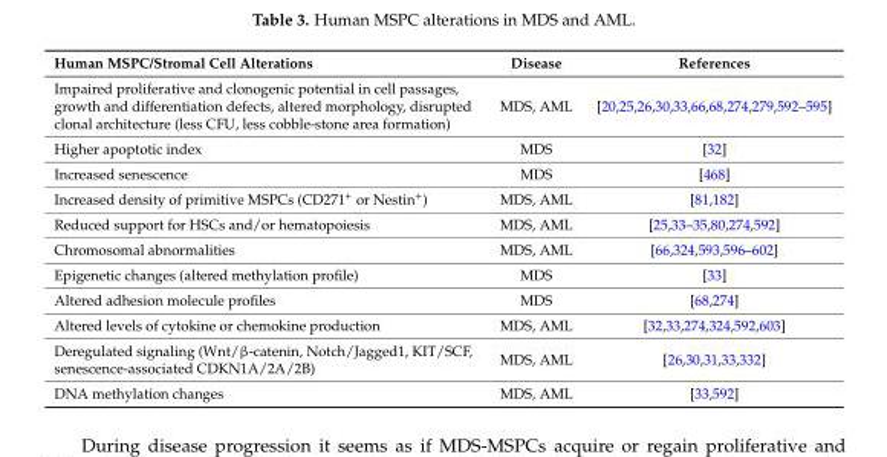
<table><thead><tr><td>Human MSPC/Stromal Cell Alterations</td><td>Disease</td><td>References</td></tr></thead><tbody><tr><td>Impaired proliferative and clonogenic potential in cell passages, growth and differentiation defects, altered morphology, disrupted clonal architecture (less CFU, less cobble-stone area formation)</td><td>MDS, AML</td><td>[20,25,26,30,33,66,68,274,279,592–595]</td></tr><tr><td>Higher apoptotic index</td><td>MDS</td><td>[32]</td></tr><tr><td>Increased senescence</td><td>MDS</td><td>[468]</td></tr><tr><td>Increased density of primitive MSPCs (CD271<sup>+</sup> or Nestin<sup>+</sup>)</td><td>MDS, AML</td><td>[81,182]</td></tr><tr><td>Reduced support for HSCs and/or hematopoiesis</td><td>MDS, AML</td><td>[25,33–35,80,274,592]</td></tr><tr><td>Chromosomal abnormalities</td><td>MDS, AML</td><td>[66,324,593,596–602]</td></tr><tr><td>Epigenetic changes (altered methylation profile)</td><td>MDS</td><td>[33]</td></tr><tr><td>Altered adhesion molecule profiles</td><td>MDS</td><td>[68,274]</td></tr><tr><td>Altered levels of cytokine or chemokine production</td><td>MDS, AML</td><td>[32,33,274,324,592,603]</td></tr><tr><td>Deregulated signaling (Wnt/β-catenin, Notch/Jagged1, KIT/SCF, senescence-associated CDKN1A/2A/2B)</td><td>MDS, AML</td><td>[26,30,31,33,332]</td></tr><tr><td>DNA methylation changes</td><td>MDS, AML</td><td>[33,592]</td></tr></tbody></table>